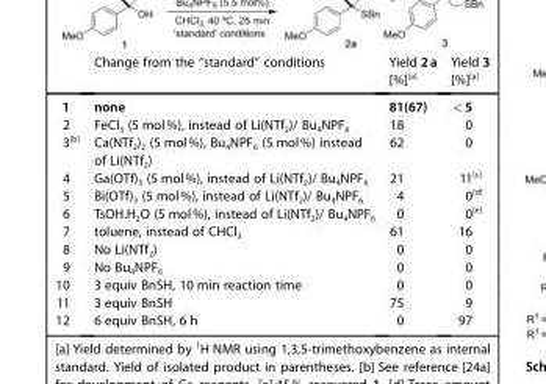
<table><thead><tr><td></td><td>Change from the “standard” conditions</td><td>Yield 2a [%]<sup>[a]</sup></td><td>Yield 3 [%]<sup>[a]</sup></td></tr></thead><tbody><tr><td>1</td><td>none</td><td>81(67)</td><td>&lt;5</td></tr><tr><td>2</td><td>FeCl<sub>3</sub> (5 mol%), instead of Li(NTf<sub>2</sub>)/ Bu<sub>4</sub>NPF<sub>6</sub></td><td>18</td><td>0</td></tr><tr><td>3<sup>[b]</sup></td><td>Ca(NTf<sub>2</sub>)<sub>2</sub> (5 mol%), Bu<sub>4</sub>NPF<sub>6</sub> (5 mol%) instead of Li(NTf<sub>2</sub>)</td><td>62</td><td>0</td></tr><tr><td>4</td><td>Ga(OTf)<sub>3</sub> (5 mol%), instead of Li(NTf<sub>2</sub>)/ Bu<sub>4</sub>NPF<sub>6</sub></td><td>21</td><td>11<sup>[c]</sup></td></tr><tr><td>5</td><td>Bi(OTf)<sub>3</sub> (5 mol%), instead of Li(NTf<sub>2</sub>)/ Bu<sub>4</sub>NPF<sub>6</sub></td><td>4</td><td>0<sup>[d]</sup></td></tr><tr><td>6</td><td>TsOH.H<sub>2</sub>O (5 mol%), instead of Li(NTf<sub>2</sub>)/ Bu<sub>4</sub>NPF<sub>6</sub></td><td>0</td><td>0<sup>[e]</sup></td></tr><tr><td>7</td><td>toluene, instead of CHCl<sub>3</sub></td><td>61</td><td>16</td></tr><tr><td>8</td><td>No Li(NTf<sub>2</sub>)</td><td>0</td><td>0</td></tr><tr><td>9</td><td>No Bu<sub>4</sub>NPF<sub>6</sub></td><td>0</td><td>0</td></tr><tr><td>10</td><td>3 equiv BnSH, 10 min reaction time</td><td>0</td><td>0</td></tr><tr><td>11</td><td>3 equiv BnSH</td><td>75</td><td>9</td></tr><tr><td>12</td><td>6 equiv BnSH, 6 h</td><td>0</td><td>97</td></tr></tbody></table>